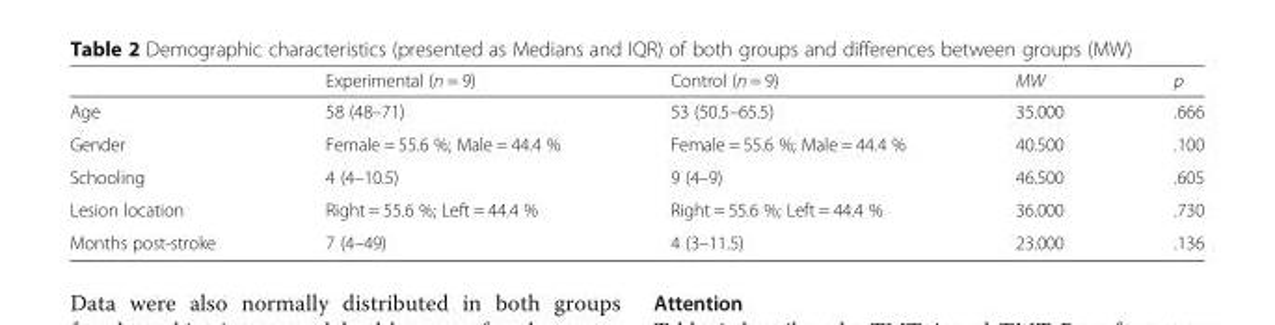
<table><thead><tr><td></td><td>Experimental (n = 9)</td><td>Control (n = 9)</td><td>MW</td><td>p</td></tr></thead><tbody><tr><td>Age</td><td>58 (48–71)</td><td>53 (50.5–65.5)</td><td>35.000</td><td>.666</td></tr><tr><td>Gender</td><td>Female = 55.6 %; Male = 44.4 %</td><td>Female = 55.6 %; Male = 44.4 %</td><td>40.500</td><td>.100</td></tr><tr><td>Schooling</td><td>4 (4–10.5)</td><td>9 (4–9)</td><td>46.500</td><td>.605</td></tr><tr><td>Lesion location</td><td>Right = 55.6 %; Left = 44.4 %</td><td>Right = 55.6 %; Left = 44.4 %</td><td>36.000</td><td>.730</td></tr><tr><td>Months post-stroke</td><td>7 (4–49)</td><td>4 (3–11.5)</td><td>23.000</td><td>.136</td></tr></tbody></table>